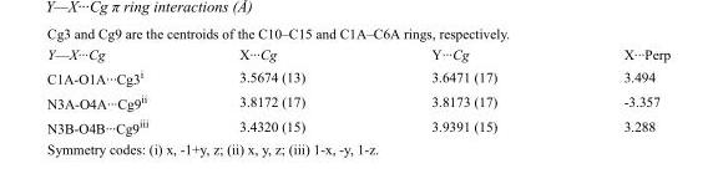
<table><tbody><tr><td>Y—X···Cg</td><td>X···Cg</td><td>Y···Cg</td><td>X···Perp</td></tr><tr><td>C1A-O1A···Cg3<sup>i</sup></td><td>3.5674 (13)</td><td>3.6471 (17)</td><td>3.494</td></tr><tr><td>N3A-O4A···Cg9<sup>ii</sup></td><td>3.8172 (17)</td><td>3.8173 (17)</td><td>-3.357</td></tr><tr><td>N3B-O4B···Cg9<sup>iii</sup></td><td>3.4320 (15)</td><td>3.9391 (15)</td><td>3.288</td></tr></tbody></table>